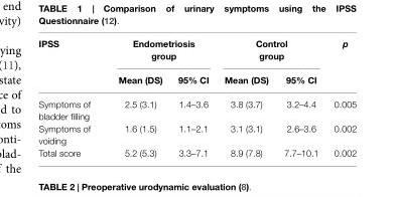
<table><thead><tr><td rowspan="2">IPSS</td><td colspan="2">Endometriosis group</td><td colspan="2">Control group</td><td rowspan="2">p</td></tr><tr><td>Mean (DS)</td><td>95% CI</td><td>Mean (DS)</td><td>95% CI</td></tr></thead><tbody><tr><td>Symptoms of bladder filling</td><td>2.5 (3.1)</td><td>1.4–3.6</td><td>3.8 (3.7)</td><td>3.2–4.4</td><td>0.005</td></tr><tr><td>Symptoms of voiding</td><td>1.6 (1.5)</td><td>1.1–2.1</td><td>3.1 (3.1)</td><td>2.6–3.6</td><td>0.002</td></tr><tr><td>Total score</td><td>5.2 (5.3)</td><td>3.3–7.1</td><td>8.9 (7.8)</td><td>7.7–10.1</td><td>0.002</td></tr></tbody></table>